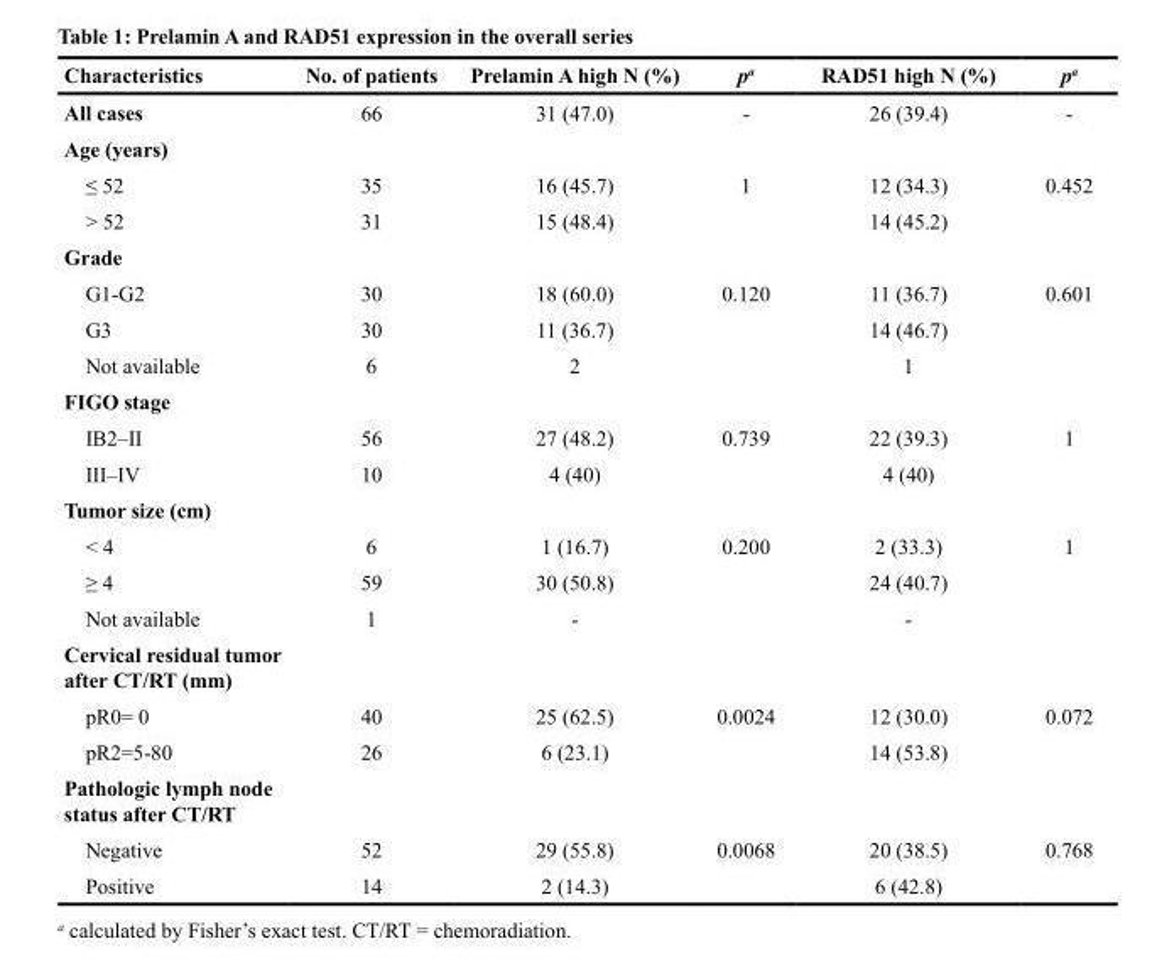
<table><thead><tr><td>Characteristics</td><td>No. of patients</td><td>Prelamin A high N (%)</td><td>p<sup>a</sup></td><td>RAD51 high N (%)</td><td>p<sup>a</sup></td></tr></thead><tbody><tr><td>All cases</td><td>66</td><td>31 (47.0)</td><td>-</td><td>26 (39.4)</td><td>-</td></tr><tr><td colspan="6">Age (years)</td></tr><tr><td>≤ 52</td><td>35</td><td>16 (45.7)</td><td>1</td><td>12 (34.3)</td><td>0.452</td></tr><tr><td>&gt; 52</td><td>31</td><td>15 (48.4)</td><td></td><td>14 (45.2)</td><td></td></tr><tr><td colspan="6">Grade</td></tr><tr><td>G1-G2</td><td>30</td><td>18 (60.0)</td><td>0.120</td><td>11 (36.7)</td><td>0.601</td></tr><tr><td>G3</td><td>30</td><td>11 (36.7)</td><td></td><td>14 (46.7)</td><td></td></tr><tr><td>Not available</td><td>6</td><td>2</td><td></td><td>1</td><td></td></tr><tr><td colspan="6">FIGO stage</td></tr><tr><td>IB2–II</td><td>56</td><td>27 (48.2)</td><td>0.739</td><td>22 (39.3)</td><td>1</td></tr><tr><td>III–IV</td><td>10</td><td>4 (40)</td><td></td><td>4 (40)</td><td></td></tr><tr><td colspan="6">Tumor size (cm)</td></tr><tr><td>&lt; 4</td><td>6</td><td>1 (16.7)</td><td>0.200</td><td>2 (33.3)</td><td>1</td></tr><tr><td>≥ 4</td><td>59</td><td>30 (50.8)</td><td></td><td>24 (40.7)</td><td></td></tr><tr><td>Not available</td><td>1</td><td>-</td><td></td><td>-</td><td></td></tr><tr><td colspan="6">Cervical residual tumor after CT/RT (mm)</td></tr><tr><td>pR0= 0</td><td>40</td><td>25 (62.5)</td><td>0.0024</td><td>12 (30.0)</td><td>0.072</td></tr><tr><td>pR2=5-80</td><td>26</td><td>6 (23.1)</td><td></td><td>14 (53.8)</td><td></td></tr><tr><td colspan="6">Pathologic lymph node status after CT/RT</td></tr><tr><td>Negative</td><td>52</td><td>29 (55.8)</td><td>0.0068</td><td>20 (38.5)</td><td>0.768</td></tr><tr><td>Positive</td><td>14</td><td>2 (14.3)</td><td></td><td>6 (42.8)</td><td></td></tr></tbody></table>